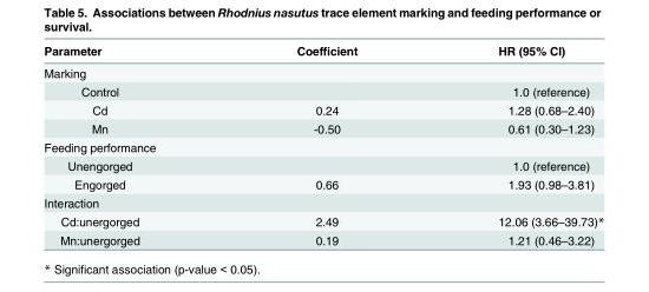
<table><thead><tr><td>Parameter</td><td>Coefficient</td><td>HR (95% CI)</td></tr></thead><tbody><tr><td colspan="3">Marking</td></tr><tr><td>Control</td><td></td><td>1.0 (reference)</td></tr><tr><td>Cd</td><td>0.24</td><td>1.28 (0.68–2.40)</td></tr><tr><td>Mn</td><td>-0.50</td><td>0.61 (0.30–1.23)</td></tr><tr><td colspan="3">Feeding performance</td></tr><tr><td>Unengorged</td><td></td><td>1.0 (reference)</td></tr><tr><td>Engorged</td><td>0.66</td><td>1.93 (0.98–3.81)</td></tr><tr><td colspan="3">Interaction</td></tr><tr><td>Cd:unergorged</td><td>2.49</td><td>12.06 (3.66–39.73)*</td></tr><tr><td>Mn:unergorged</td><td>0.19</td><td>1.21 (0.46–3.22)</td></tr></tbody></table>